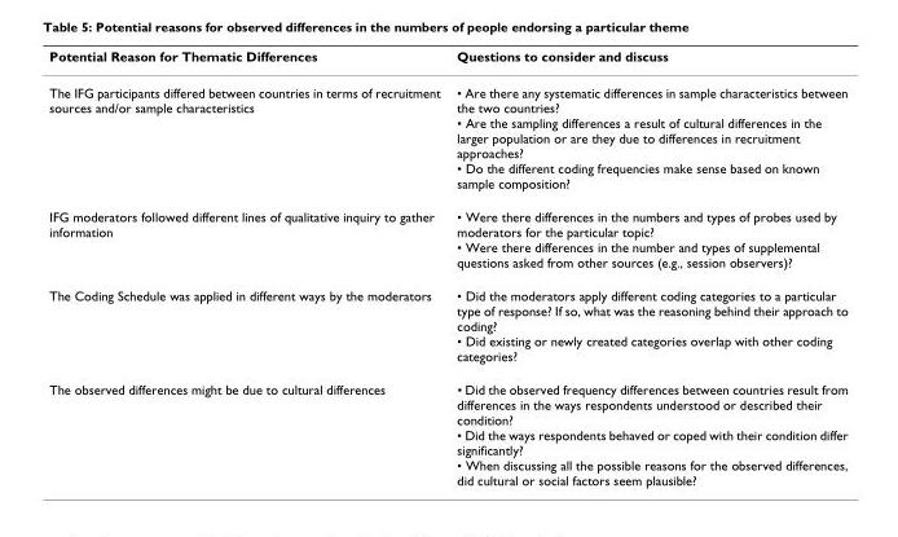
<table><thead><tr><td>Potential Reason for Thematic Differences</td><td>Questions to consider and discuss</td></tr></thead><tbody><tr><td>The IFG participants differed between countries in terms of recruitment sources and/or sample characteristics</td><td>• Are there any systematic differences in sample characteristics between the two countries? • Are the sampling differences a result of cultural differences in the larger population or are they due to differences in recruitment approaches? • Do the different coding frequencies make sense based on known sample composition?</td></tr><tr><td>IFG moderators followed different lines of qualitative inquiry to gather information</td><td>• Were there differences in the numbers and types of probes used by moderators for the particular topic? • Were there differences in the number and types of supplemental questions asked from other sources (e.g., session observers)?</td></tr><tr><td>The Coding Schedule was applied in different ways by the moderators</td><td>• Did the moderators apply different coding categories to a particular type of response? If so, what was the reasoning behind their approach to coding? • Did existing or newly created categories overlap with other coding categories?</td></tr><tr><td>The observed differences might be due to cultural differences</td><td>• Did the observed frequency differences between countries result from differences in the ways respondents understood or described their condition? • Did the ways respondents behaved or coped with their condition differ significantly? • When discussing all the possible reasons for the observed differences, did cultural or social factors seem plausible?</td></tr></tbody></table>